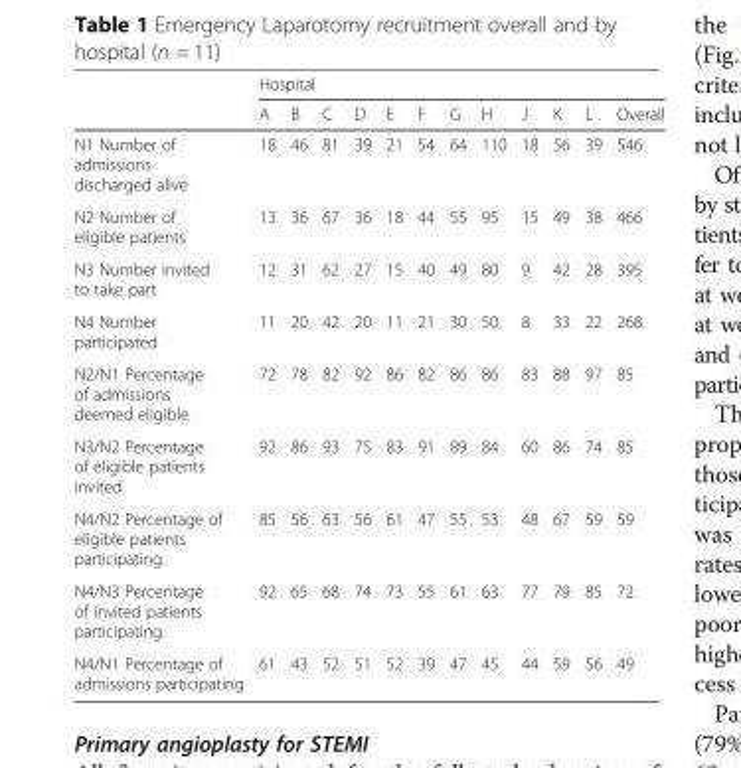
<table><thead><tr><td rowspan="2"></td><td colspan="12">Hospital</td></tr><tr><td>A</td><td>B</td><td>C</td><td>D</td><td>E</td><td>F</td><td>G</td><td>H</td><td>J</td><td>K</td><td>L</td><td>Overall</td></tr></thead><tbody><tr><td>N1 Number of admissions discharged alive</td><td>18</td><td>46</td><td>81</td><td>39</td><td>21</td><td>54</td><td>64</td><td>110</td><td>18</td><td>56</td><td>39</td><td>546</td></tr><tr><td>N2 Number of eligible patients</td><td>13</td><td>36</td><td>67</td><td>36</td><td>18</td><td>44</td><td>55</td><td>95</td><td>15</td><td>49</td><td>38</td><td>466</td></tr><tr><td>N3 Number invited to take part</td><td>12</td><td>31</td><td>62</td><td>27</td><td>15</td><td>40</td><td>49</td><td>80</td><td>9</td><td>42</td><td>28</td><td>395</td></tr><tr><td>N4 Number participated</td><td>11</td><td>20</td><td>42</td><td>20</td><td>11</td><td>21</td><td>30</td><td>50</td><td>8</td><td>33</td><td>22</td><td>268</td></tr><tr><td>N2/N1 Percentage of admissions deemed eligible</td><td>72</td><td>78</td><td>82</td><td>92</td><td>86</td><td>82</td><td>86</td><td>86</td><td>83</td><td>88</td><td>97</td><td>85</td></tr><tr><td>N3/N2 Percentage of eligible patients invited</td><td>92</td><td>86</td><td>93</td><td>75</td><td>83</td><td>91</td><td>89</td><td>84</td><td>60</td><td>86</td><td>74</td><td>85</td></tr><tr><td>N4/N2 Percentage of eligible patients participating.</td><td>85</td><td>56</td><td>63</td><td>56</td><td>61</td><td>47</td><td>55</td><td>53</td><td>48</td><td>67</td><td>59</td><td>59</td></tr><tr><td>N4/N3 Percentage of invited patients participating.</td><td>92</td><td>65</td><td>68</td><td>74</td><td>73</td><td>55</td><td>61</td><td>63</td><td>77</td><td>79</td><td>85</td><td>72</td></tr><tr><td>N4/N1 Percentage of admissions participating</td><td>61</td><td>43</td><td>52</td><td>51</td><td>52</td><td>39</td><td>47</td><td>45</td><td>44</td><td>59</td><td>56</td><td>49</td></tr></tbody></table>